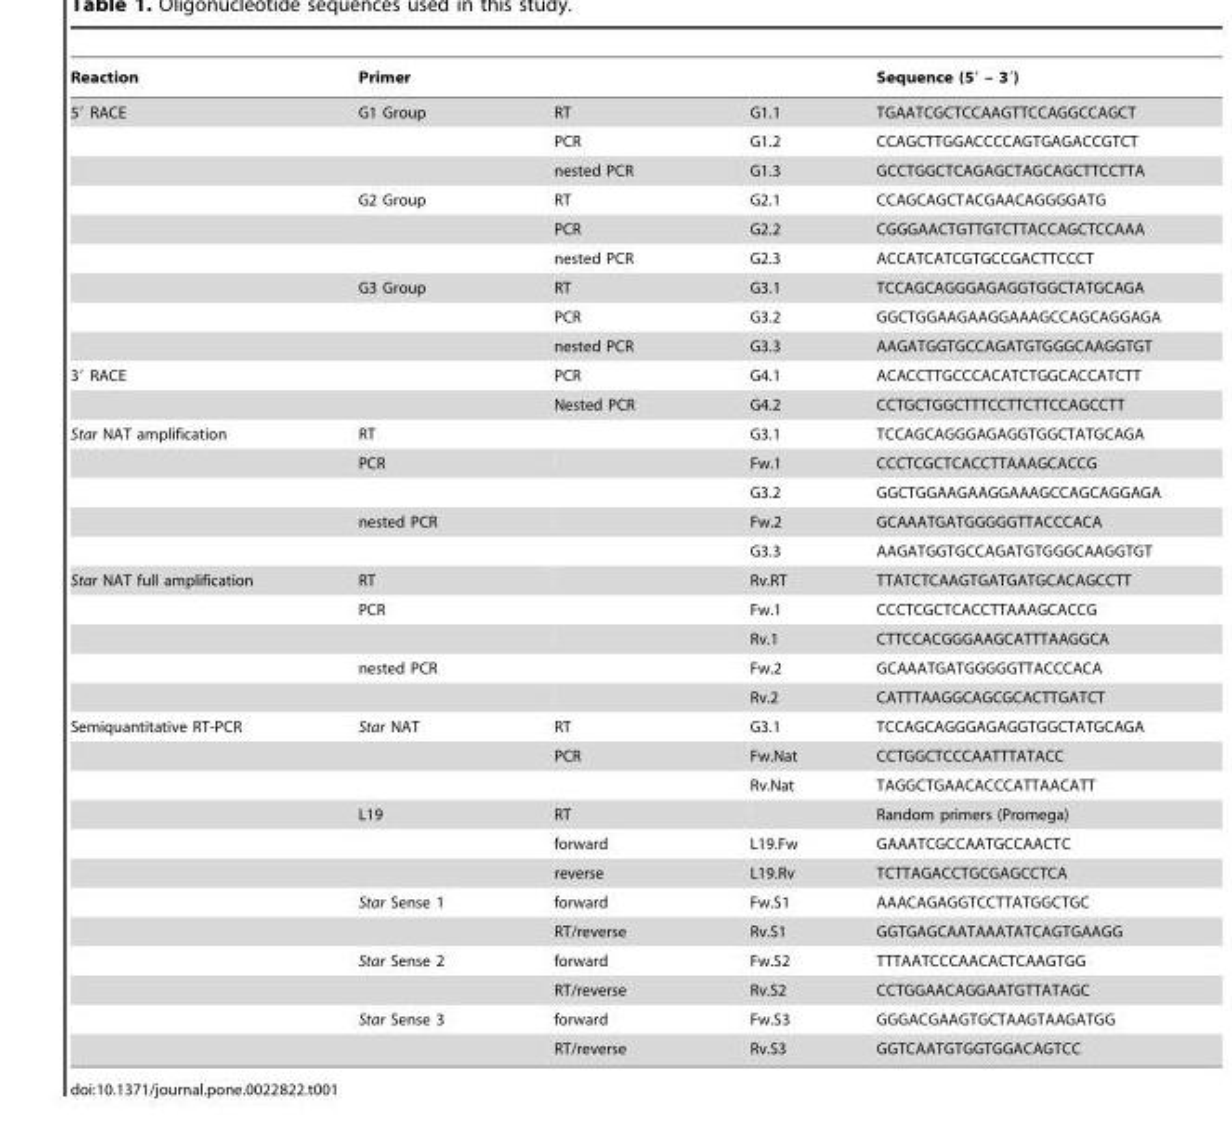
<table><thead><tr><td>Reaction</td><td>Primer</td><td></td><td></td><td>Sequence (5′ – 3′)</td></tr></thead><tbody><tr><td rowspan="9">5′ RACE</td><td>G1 Group</td><td>RT</td><td>G1.1</td><td>TGAATCGCTCCAAGTTCCAGGCCAGCT</td></tr><tr><td></td><td>PCR</td><td>G1.2</td><td>CCAGCTTGGACCCCAGTGAGACCGTCT</td></tr><tr><td></td><td>nested PCR</td><td>G1.3</td><td>GCCTGGCTCAGAGCTAGCAGCTTCCTTA</td></tr><tr><td>G2 Group</td><td>RT</td><td>G2.1</td><td>CCAGCAGCTACGAACAGGGGATG</td></tr><tr><td></td><td>PCR</td><td>G2.2</td><td>CGGGAACTGTTGTCTTACCAGCTCCAAA</td></tr><tr><td></td><td>nested PCR</td><td>G2.3</td><td>ACCATCATCGTGCCGACTTCCCT</td></tr><tr><td>G3 Group</td><td>RT</td><td>G3.1</td><td>TCCAGCAGGGAGAGGTGGCTATGCAGA</td></tr><tr><td></td><td>PCR</td><td>G3.2</td><td>GGCTGGAAGAAGGAAAGCCAGCAGGAGA</td></tr><tr><td></td><td>nested PCR</td><td>G3.3</td><td>AAGATGGTGCCAGATGTGGGCAAGGTGT</td></tr><tr><td rowspan="2">3′ RACE</td><td></td><td>PCR</td><td>G4.1</td><td>ACACCTTGCCCACATCTGGCACCATCTT</td></tr><tr><td></td><td>Nested PCR</td><td>G4.2</td><td>CCTGCTGGCTTTCCTTCTTCCAGCCTT</td></tr><tr><td rowspan="5">Star NAT amplification</td><td>RT</td><td></td><td>G3.1</td><td>TCCAGCAGGGAGAGGTGGCTATGCAGA</td></tr><tr><td>PCR</td><td></td><td>Fw.1</td><td>CCCTCGCTCACCTTAAAGCACCG</td></tr><tr><td></td><td></td><td>G3.2</td><td>GGCTGGAAGAAGGAAAGCCAGCAGGAGA</td></tr><tr><td>nested PCR</td><td></td><td>Fw.2</td><td>GCAAATGATGGGGGTTACCCACA</td></tr><tr><td></td><td></td><td>G3.3</td><td>AAGATGGTGCCAGATGTGGGCAAGGTGT</td></tr><tr><td rowspan="5">Star NAT full amplification</td><td>RT</td><td></td><td>Rv.RT</td><td>TTATCTCAAGTGATGATGCACAGCCTT</td></tr><tr><td>PCR</td><td></td><td>Fw.1</td><td>CCCTCGCTCACCTTAAAGCACCG</td></tr><tr><td></td><td></td><td>Rv.1</td><td>CTTCCACGGGAAGCATTTAAGGCA</td></tr><tr><td>nested PCR</td><td></td><td>Fw.2</td><td>GCAAATGATGGGGGTTACCCACA</td></tr><tr><td></td><td></td><td>Rv.2</td><td>CATTTAAGGCAGCGCACTTGATCT</td></tr><tr><td rowspan="12">Semiquantitative RT-PCR</td><td>Star NAT</td><td>RT</td><td>G3.1</td><td>TCCAGCAGGGAGAGGTGGCTATGCAGA</td></tr><tr><td></td><td>PCR</td><td>Fw.Nat</td><td>CCTGGCTCCCAATTTATACC</td></tr><tr><td></td><td></td><td>Rv.Nat</td><td>TAGGCTGAACACCCATTAACATT</td></tr><tr><td>L19</td><td>RT</td><td></td><td>Random primers (Promega)</td></tr><tr><td></td><td>forward</td><td>L19.Fw</td><td>GAAATCGCCAATGCCAACTC</td></tr><tr><td></td><td>reverse</td><td>L19.Rv</td><td>TCTTAGACCTGCGAGCCTCA</td></tr><tr><td>Star Sense 1</td><td>forward</td><td>Fw.S1</td><td>AAACAGAGGTCCTTATGGCTGC</td></tr><tr><td></td><td>RT/reverse</td><td>Rv.S1</td><td>GGTGAGCAATAAATATCAGTGAAGG</td></tr><tr><td>Star Sense 2</td><td>forward</td><td>Fw.S2</td><td>TTTAATCCCAACACTCAAGTGG</td></tr><tr><td></td><td>RT/reverse</td><td>Rv.S2</td><td>CCTGGAACAGGAATGTTATAGC</td></tr><tr><td>Star Sense 3</td><td>forward</td><td>Fw.S3</td><td>GGGACGAAGTGCTAAGTAAGATGG</td></tr><tr><td></td><td>RT/reverse</td><td>Rv.S3</td><td>GGTCAATGTGGTGGACAGTCC</td></tr></tbody></table>